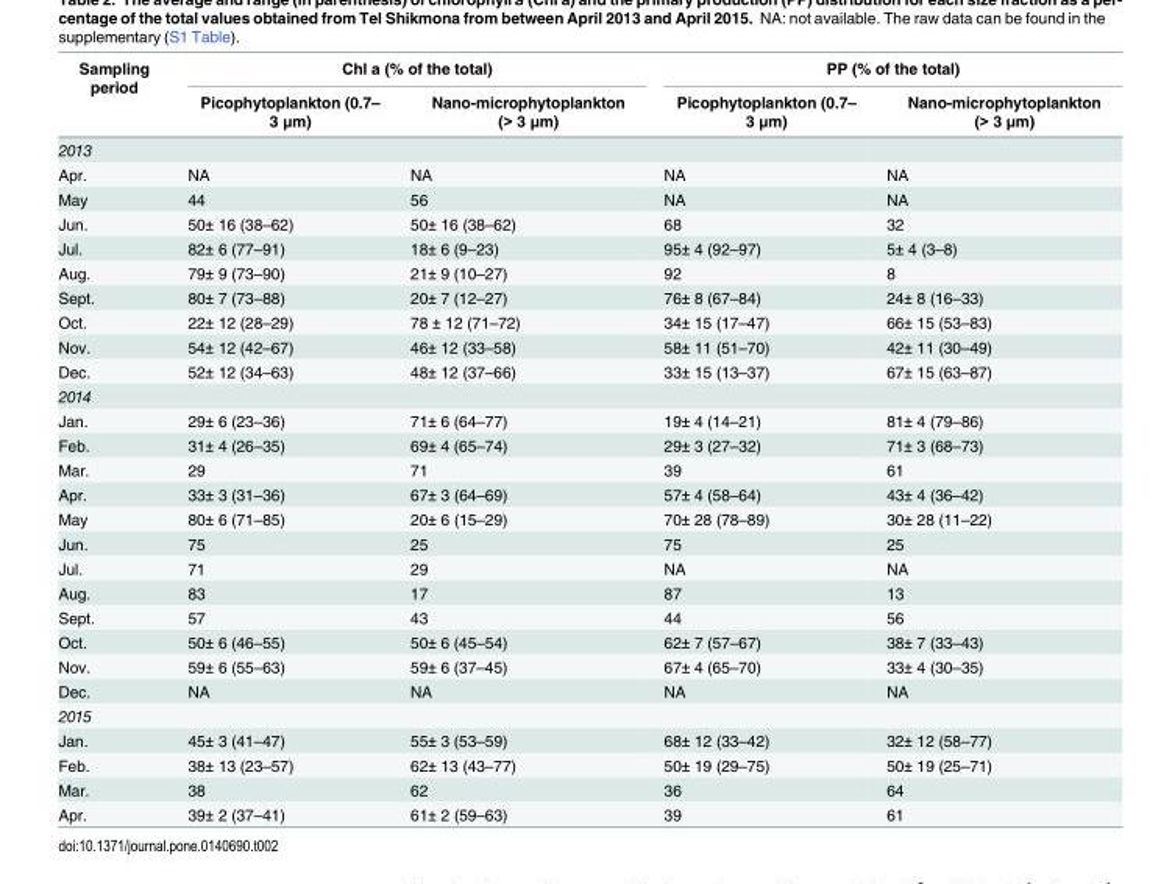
<table><thead><tr><td rowspan="2">Sampling period</td><td colspan="2">Chl a (% of the total)</td><td colspan="2">PP (% of the total)</td></tr><tr><td>Picophytoplankton (0.7– 3 μm)</td><td>Nano-microphytoplankton (&gt; 3 μm)</td><td>Picophytoplankton (0.7– 3 μm)</td><td>Nano-microphytoplankton (&gt; 3 μm)</td></tr></thead><tbody><tr><td colspan="5">2013</td></tr><tr><td>Apr.</td><td>NA</td><td>NA</td><td>NA</td><td>NA</td></tr><tr><td>May</td><td>44</td><td>56</td><td>NA</td><td>NA</td></tr><tr><td>Jun.</td><td>50± 16 (38–62)</td><td>50± 16 (38–62)</td><td>68</td><td>32</td></tr><tr><td>Jul.</td><td>82± 6 (77–91)</td><td>18± 6 (9–23)</td><td>95± 4 (92–97)</td><td>5± 4 (3–8)</td></tr><tr><td>Aug.</td><td>79± 9 (73–90)</td><td>21± 9 (10–27)</td><td>92</td><td>8</td></tr><tr><td>Sept.</td><td>80± 7 (73–88)</td><td>20± 7 (12–27)</td><td>76± 8 (67–84)</td><td>24± 8 (16–33)</td></tr><tr><td>Oct.</td><td>22± 12 (28–29)</td><td>78 ± 12 (71–72)</td><td>34± 15 (17–47)</td><td>66± 15 (53–83)</td></tr><tr><td>Nov.</td><td>54± 12 (42–67)</td><td>46± 12 (33–58)</td><td>58± 11 (51–70)</td><td>42± 11 (30–49)</td></tr><tr><td>Dec.</td><td>52± 12 (34–63)</td><td>48± 12 (37–66)</td><td>33± 15 (13–37)</td><td>67± 15 (63–87)</td></tr><tr><td colspan="5">2014</td></tr><tr><td>Jan.</td><td>29± 6 (23–36)</td><td>71± 6 (64–77)</td><td>19± 4 (14–21)</td><td>81± 4 (79–86)</td></tr><tr><td>Feb.</td><td>31± 4 (26–35)</td><td>69± 4 (65–74)</td><td>29± 3 (27–32)</td><td>71± 3 (68–73)</td></tr><tr><td>Mar.</td><td>29</td><td>71</td><td>39</td><td>61</td></tr><tr><td>Apr.</td><td>33± 3 (31–36)</td><td>67± 3 (64–69)</td><td>57± 4 (58–64)</td><td>43± 4 (36–42)</td></tr><tr><td>May</td><td>80± 6 (71–85)</td><td>20± 6 (15–29)</td><td>70± 28 (78–89)</td><td>30± 28 (11–22)</td></tr><tr><td>Jun.</td><td>75</td><td>25</td><td>75</td><td>25</td></tr><tr><td>Jul.</td><td>71</td><td>29</td><td>NA</td><td>NA</td></tr><tr><td>Aug.</td><td>83</td><td>17</td><td>87</td><td>13</td></tr><tr><td>Sept.</td><td>57</td><td>43</td><td>44</td><td>56</td></tr><tr><td>Oct.</td><td>50± 6 (46–55)</td><td>50± 6 (45–54)</td><td>62± 7 (57–67)</td><td>38± 7 (33–43)</td></tr><tr><td>Nov.</td><td>59± 6 (55–63)</td><td>59± 6 (37–45)</td><td>67± 4 (65–70)</td><td>33± 4 (30–35)</td></tr><tr><td>Dec.</td><td>NA</td><td>NA</td><td>NA</td><td>NA</td></tr><tr><td colspan="5">2015</td></tr><tr><td>Jan.</td><td>45± 3 (41–47)</td><td>55± 3 (53–59)</td><td>68± 12 (33–42)</td><td>32± 12 (58–77)</td></tr><tr><td>Feb.</td><td>38± 13 (23–57)</td><td>62± 13 (43–77)</td><td>50± 19 (29–75)</td><td>50± 19 (25–71)</td></tr><tr><td>Mar.</td><td>38</td><td>62</td><td>36</td><td>64</td></tr><tr><td>Apr.</td><td>39± 2 (37–41)</td><td>61± 2 (59–63)</td><td>39</td><td>61</td></tr></tbody></table>